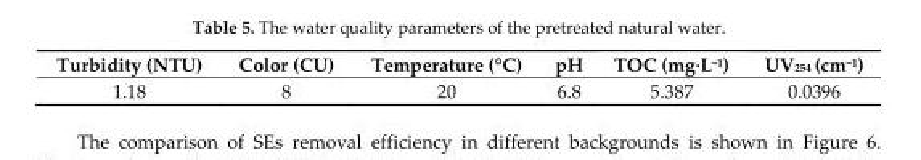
<table><thead><tr><td>Turbidity (NTU)</td><td>Color (CU)</td><td>Temperature (°C)</td><td>pH</td><td>TOC (mg·L<sup>−1</sup>)</td><td>UV<sub>254</sub> (cm<sup>−1</sup>)</td></tr></thead><tbody><tr><td>1.18</td><td>8</td><td>20</td><td>6.8</td><td>5.387</td><td>0.0396</td></tr></tbody></table>